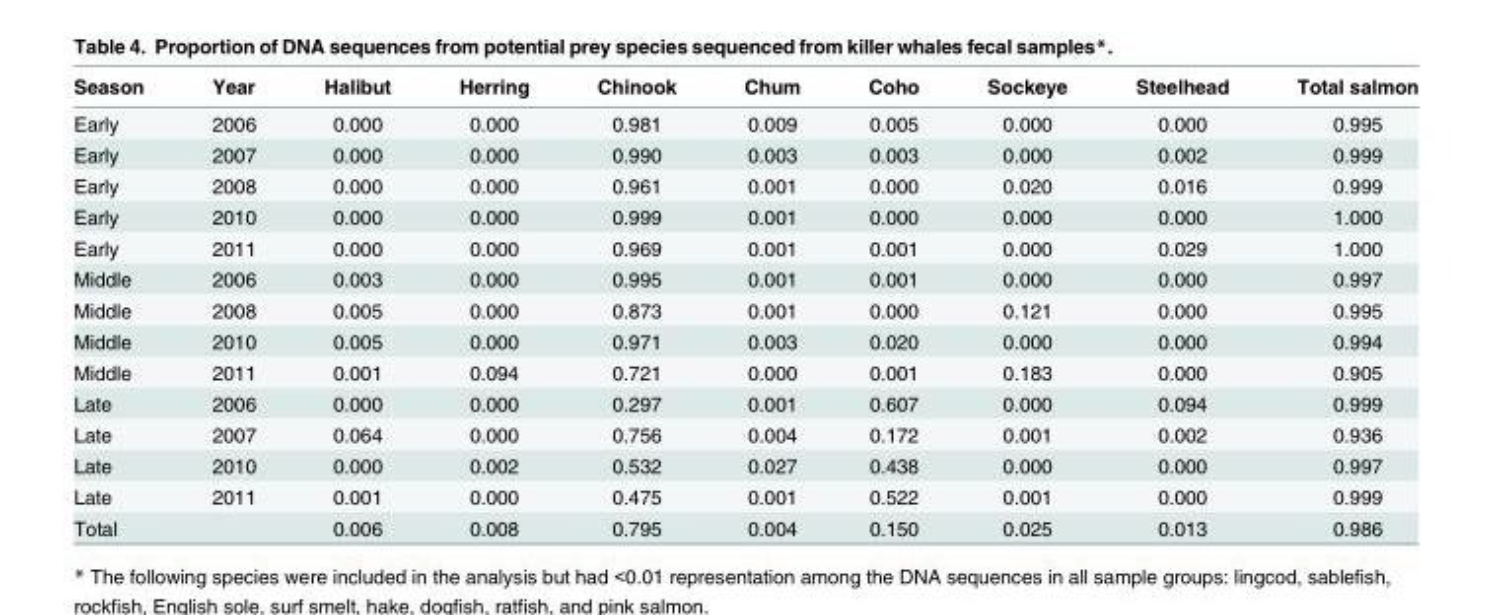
<table><thead><tr><td>Season</td><td>Year</td><td>Halibut</td><td>Herring</td><td>Chinook</td><td>Chum</td><td>Coho</td><td>Sockeye</td><td>Steelhead</td><td>Total salmon</td></tr></thead><tbody><tr><td>Early</td><td>2006</td><td>0.000</td><td>0.000</td><td>0.981</td><td>0.009</td><td>0.005</td><td>0.000</td><td>0.000</td><td>0.995</td></tr><tr><td>Early</td><td>2007</td><td>0.000</td><td>0.000</td><td>0.990</td><td>0.003</td><td>0.003</td><td>0.000</td><td>0.002</td><td>0.999</td></tr><tr><td>Early</td><td>2008</td><td>0.000</td><td>0.000</td><td>0.961</td><td>0.001</td><td>0.000</td><td>0.020</td><td>0.016</td><td>0.999</td></tr><tr><td>Early</td><td>2010</td><td>0.000</td><td>0.000</td><td>0.999</td><td>0.001</td><td>0.000</td><td>0.000</td><td>0.000</td><td>1.000</td></tr><tr><td>Early</td><td>2011</td><td>0.000</td><td>0.000</td><td>0.969</td><td>0.001</td><td>0.001</td><td>0.000</td><td>0.029</td><td>1.000</td></tr><tr><td>Middle</td><td>2006</td><td>0.003</td><td>0.000</td><td>0.995</td><td>0.001</td><td>0.001</td><td>0.000</td><td>0.000</td><td>0.997</td></tr><tr><td>Middle</td><td>2008</td><td>0.005</td><td>0.000</td><td>0.873</td><td>0.001</td><td>0.000</td><td>0.121</td><td>0.000</td><td>0.995</td></tr><tr><td>Middle</td><td>2010</td><td>0.005</td><td>0.000</td><td>0.971</td><td>0.003</td><td>0.020</td><td>0.000</td><td>0.000</td><td>0.994</td></tr><tr><td>Middle</td><td>2011</td><td>0.001</td><td>0.094</td><td>0.721</td><td>0.000</td><td>0.001</td><td>0.183</td><td>0.000</td><td>0.905</td></tr><tr><td>Late</td><td>2006</td><td>0.000</td><td>0.000</td><td>0.297</td><td>0.001</td><td>0.607</td><td>0.000</td><td>0.094</td><td>0.999</td></tr><tr><td>Late</td><td>2007</td><td>0.064</td><td>0.000</td><td>0.756</td><td>0.004</td><td>0.172</td><td>0.001</td><td>0.002</td><td>0.936</td></tr><tr><td>Late</td><td>2010</td><td>0.000</td><td>0.002</td><td>0.532</td><td>0.027</td><td>0.438</td><td>0.000</td><td>0.000</td><td>0.997</td></tr><tr><td>Late</td><td>2011</td><td>0.001</td><td>0.000</td><td>0.475</td><td>0.001</td><td>0.522</td><td>0.001</td><td>0.000</td><td>0.999</td></tr><tr><td>Total</td><td></td><td>0.006</td><td>0.008</td><td>0.795</td><td>0.004</td><td>0.150</td><td>0.025</td><td>0.013</td><td>0.986</td></tr></tbody></table>